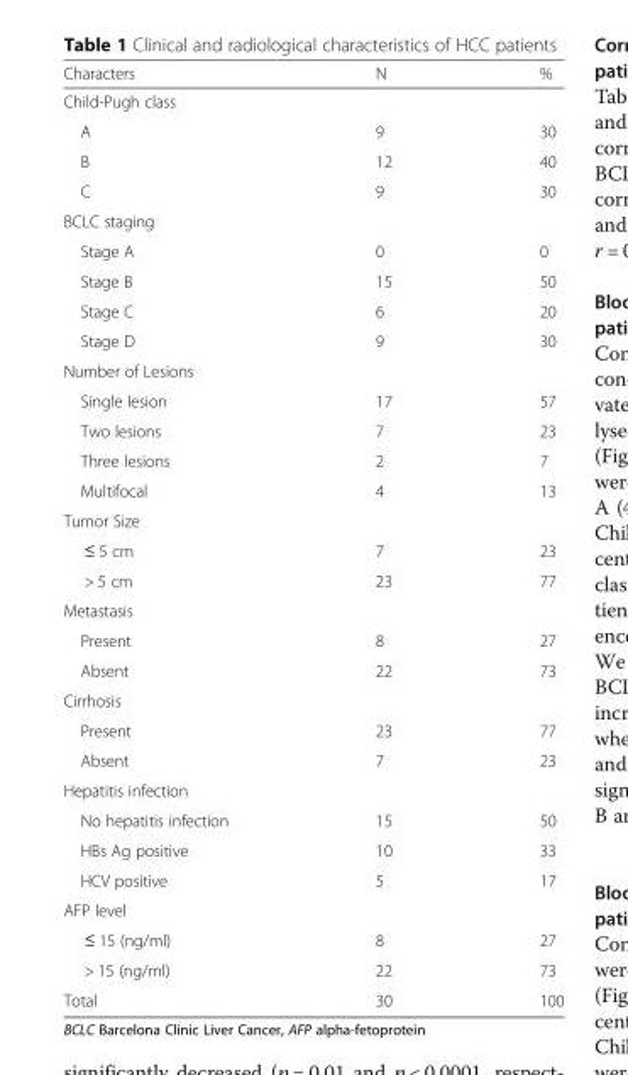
<table><thead><tr><td>Characters</td><td>N</td><td>%</td></tr></thead><tbody><tr><td colspan="3">Child-Pugh class</td></tr><tr><td>A</td><td>9</td><td>30</td></tr><tr><td>B</td><td>12</td><td>40</td></tr><tr><td>C</td><td>9</td><td>30</td></tr><tr><td colspan="3">BCLC staging</td></tr><tr><td>Stage A</td><td>0</td><td>0</td></tr><tr><td>Stage B</td><td>15</td><td>50</td></tr><tr><td>Stage C</td><td>6</td><td>20</td></tr><tr><td>Stage D</td><td>9</td><td>30</td></tr><tr><td colspan="3">Number of Lesions</td></tr><tr><td>Single lesion</td><td>17</td><td>57</td></tr><tr><td>Two lesions</td><td>7</td><td>23</td></tr><tr><td>Three lesions</td><td>2</td><td>7</td></tr><tr><td>Multifocal</td><td>4</td><td>13</td></tr><tr><td colspan="3">Tumor Size</td></tr><tr><td>≤ 5 cm</td><td>7</td><td>23</td></tr><tr><td>&gt; 5 cm</td><td>23</td><td>77</td></tr><tr><td colspan="3">Metastasis</td></tr><tr><td>Present</td><td>8</td><td>27</td></tr><tr><td>Absent</td><td>22</td><td>73</td></tr><tr><td colspan="3">Cirrhosis</td></tr><tr><td>Present</td><td>23</td><td>77</td></tr><tr><td>Absent</td><td>7</td><td>23</td></tr><tr><td colspan="3">Hepatitis infection</td></tr><tr><td>No hepatitis infection</td><td>15</td><td>50</td></tr><tr><td>HBs Ag positive</td><td>10</td><td>33</td></tr><tr><td>HCV positive</td><td>5</td><td>17</td></tr><tr><td colspan="3">AFP level</td></tr><tr><td>≤ 15 (ng/ml)</td><td>8</td><td>27</td></tr><tr><td>&gt; 15 (ng/ml)</td><td>22</td><td>73</td></tr><tr><td>Total</td><td>30</td><td>100</td></tr></tbody></table>